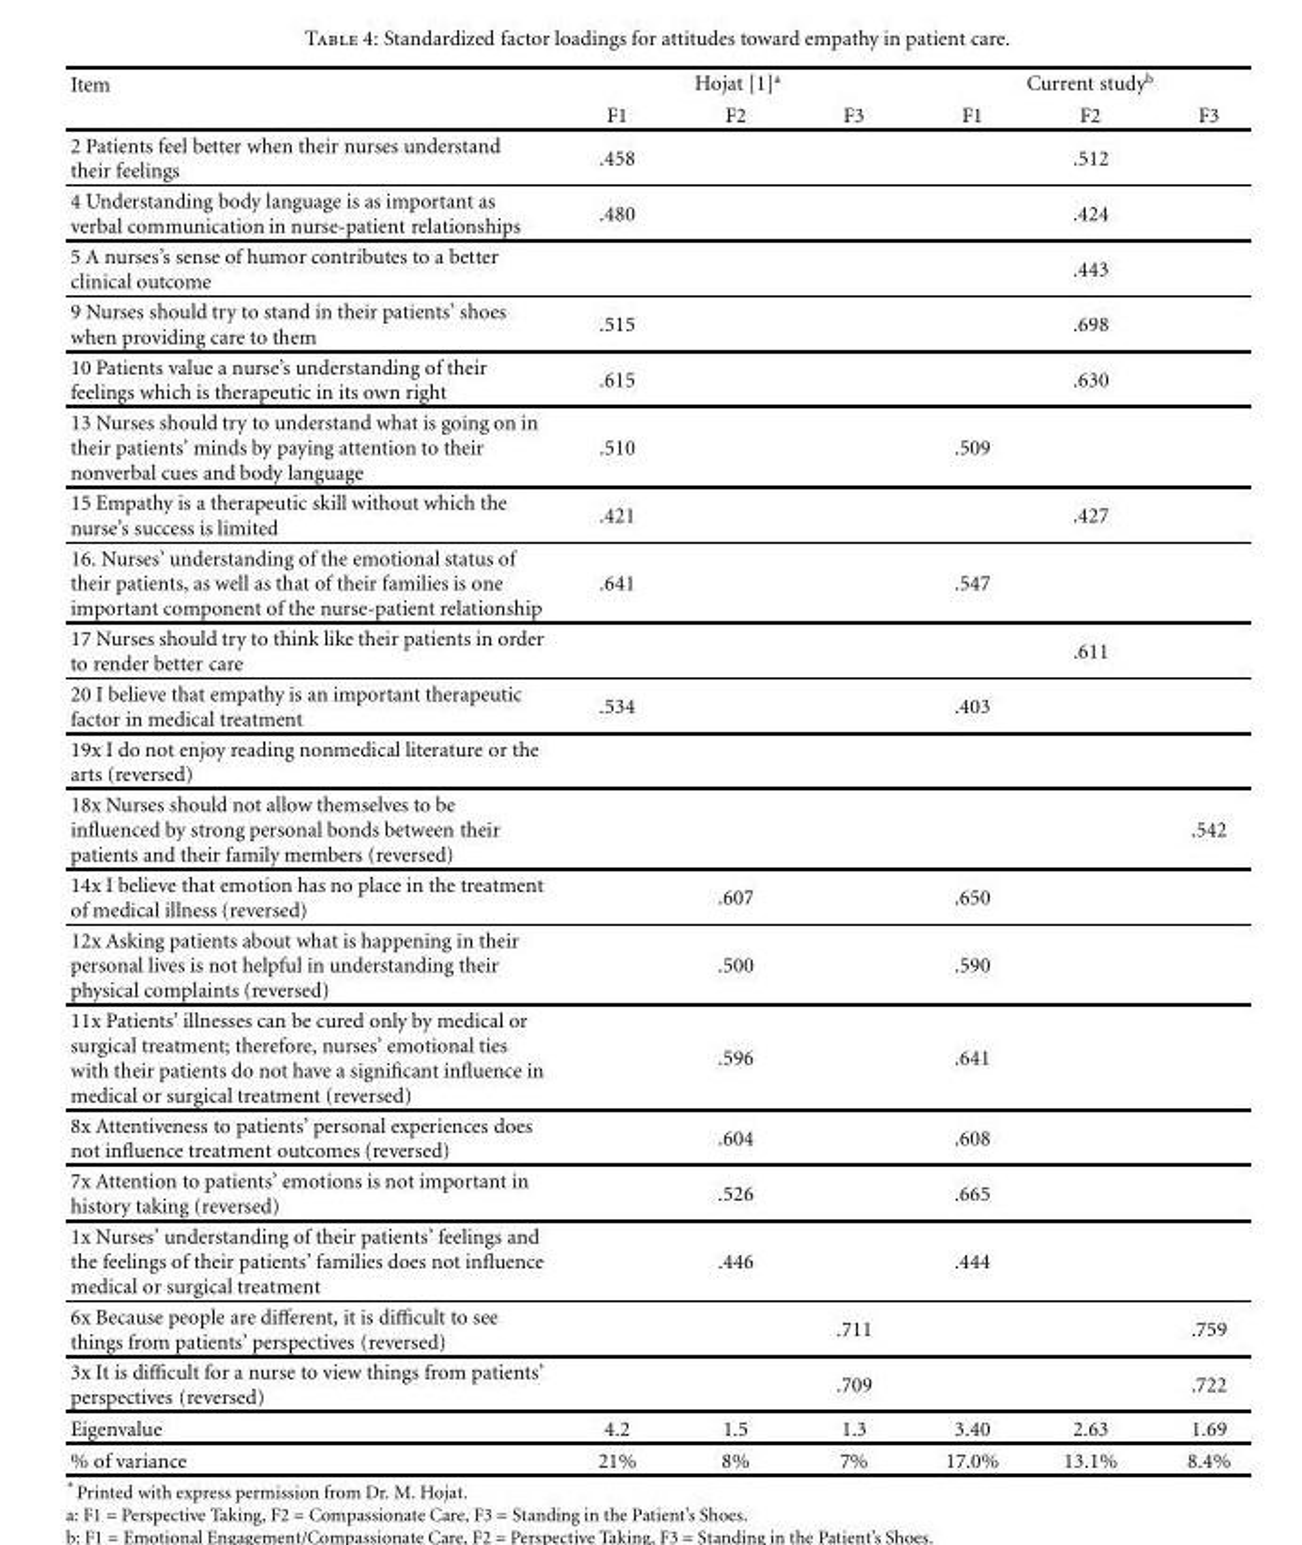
<table><thead><tr><td rowspan="2">Item</td><td colspan="3">Hojat [1]<sup>a</sup></td><td colspan="3">Current study<sup>b</sup></td></tr><tr><td>F1</td><td>F2</td><td>F3</td><td>F1</td><td>F2</td><td>F3</td></tr></thead><tbody><tr><td>2 Patients feel better when their nurses understand their feelings</td><td>.458</td><td></td><td></td><td></td><td>.512</td><td></td></tr><tr><td>4 Understanding body language is as important as verbal communication in nurse-patient relationships</td><td>.480</td><td></td><td></td><td></td><td>.424</td><td></td></tr><tr><td>5 A nurses’s sense of humor contributes to a better clinical outcome</td><td></td><td></td><td></td><td></td><td>.443</td><td></td></tr><tr><td>9 Nurses should try to stand in their patients’ shoes when providing care to them</td><td>.515</td><td></td><td></td><td></td><td>.698</td><td></td></tr><tr><td>10 Patients value a nurse’s understanding of their feelings which is therapeutic in its own right</td><td>.615</td><td></td><td></td><td></td><td>.630</td><td></td></tr><tr><td>13 Nurses should try to understand what is going on in their patients’ minds by paying attention to their nonverbal cues and body language</td><td>.510</td><td></td><td></td><td>.509</td><td></td><td></td></tr><tr><td>15 Empathy is a therapeutic skill without which the nurse’s success is limited</td><td>.421</td><td></td><td></td><td></td><td>.427</td><td></td></tr><tr><td>16. Nurses’ understanding of the emotional status of their patients, as well as that of their families is one important component of the nurse-patient relationship</td><td>.641</td><td></td><td></td><td>.547</td><td></td><td></td></tr><tr><td>17 Nurses should try to think like their patients in order to render better care</td><td></td><td></td><td></td><td></td><td>.611</td><td></td></tr><tr><td>20 I believe that empathy is an important therapeutic factor in medical treatment</td><td>.534</td><td></td><td></td><td>.403</td><td></td><td></td></tr><tr><td colspan="7">19x I do not enjoy reading nonmedical literature or the arts (reversed)</td></tr><tr><td>18x Nurses should not allow themselves to be influenced by strong personal bonds between their patients and their family members (reversed)</td><td></td><td></td><td></td><td></td><td></td><td>.542</td></tr><tr><td>14x I believe that emotion has no place in the treatment of medical illness (reversed)</td><td></td><td>.607</td><td></td><td>.650</td><td></td><td></td></tr><tr><td>12x Asking patients about what is happening in their personal lives is not helpful in understanding their physical complaints (reversed)</td><td></td><td>.500</td><td></td><td>.590</td><td></td><td></td></tr><tr><td>11x Patients’ illnesses can be cured only by medical or surgical treatment; therefore, nurses’ emotional ties with their patients do not have a significant influence in medical or surgical treatment (reversed)</td><td></td><td>.596</td><td></td><td>.641</td><td></td><td></td></tr><tr><td>8x Attentiveness to patients’ personal experiences does not influence treatment outcomes (reversed)</td><td></td><td>.604</td><td></td><td>.608</td><td></td><td></td></tr><tr><td>7x Attention to patients’ emotions is not important in history taking (reversed)</td><td></td><td>.526</td><td></td><td>.665</td><td></td><td></td></tr><tr><td>1x Nurses’ understanding of their patients’ feelings and the feelings of their patients’ families does not influence medical or surgical treatment</td><td></td><td>.446</td><td></td><td>.444</td><td></td><td></td></tr><tr><td>6x Because people are different, it is difficult to see things from patients’ perspectives (reversed)</td><td></td><td></td><td>.711</td><td></td><td></td><td>.759</td></tr><tr><td>3x It is difficult for a nurse to view things from patients’ perspectives (reversed)</td><td></td><td></td><td>.709</td><td></td><td></td><td>.722</td></tr><tr><td>Eigenvalue</td><td>4.2</td><td>1.5</td><td>1.3</td><td>3.40</td><td>2.63</td><td>1.69</td></tr><tr><td>% of variance</td><td>21%</td><td>8%</td><td>7%</td><td>17.0%</td><td>13.1%</td><td>8.4%</td></tr></tbody></table>